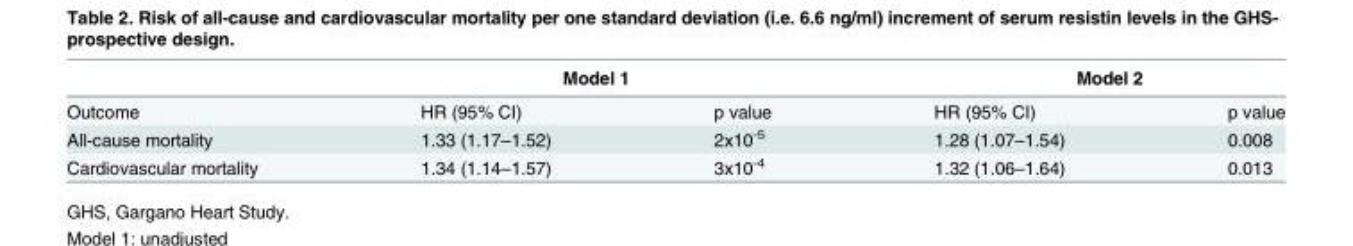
<table><thead><tr><td rowspan="2">Outcome</td><td colspan="2">Model 1</td><td colspan="2">Model 2</td></tr><tr><td>HR (95% CI)</td><td>p value</td><td>HR (95% CI)</td><td>p value</td></tr></thead><tbody><tr><td>All-cause mortality</td><td>1.33 (1.17–1.52)</td><td>2x10<sup>-5</sup></td><td>1.28 (1.07–1.54)</td><td>0.008</td></tr><tr><td>Cardiovascular mortality</td><td>1.34 (1.14–1.57)</td><td>3x10<sup>-4</sup></td><td>1.32 (1.06–1.64)</td><td>0.013</td></tr></tbody></table>